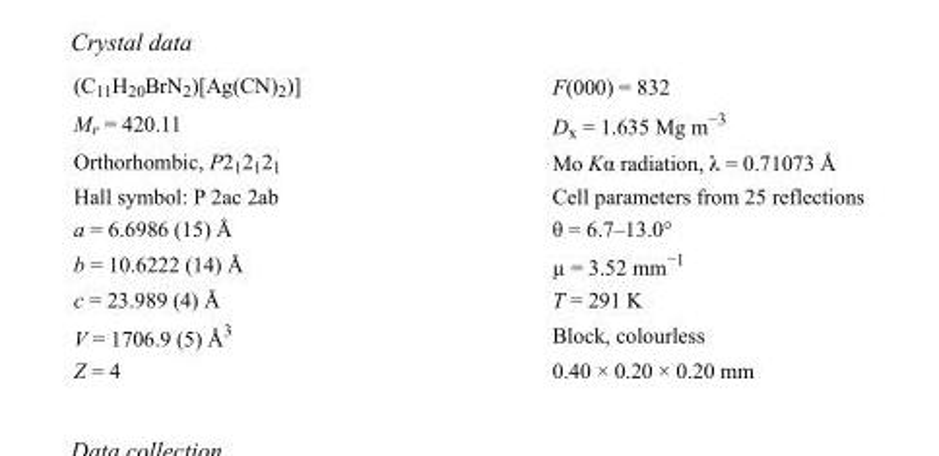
<table><tbody><tr><td>(C<sub>11</sub>H<sub>20</sub>BrN<sub>2</sub>)[Ag(CN)<sub>2</sub>)]</td><td>F(000) = 832</td></tr><tr><td>M<sub>r</sub> = 420.11</td><td>D<sub>x</sub> = 1.635 Mg m<sup>−3</sup></td></tr><tr><td>Orthorhombic, P2<sub>1</sub>2<sub>1</sub>2<sub>1</sub></td><td>Mo Kα radiation, λ = 0.71073 Å</td></tr><tr><td>Hall symbol: P 2ac 2ab</td><td>Cell parameters from 25 reflections</td></tr><tr><td>a = 6.6986 (15) Å</td><td>θ = 6.7–13.0°</td></tr><tr><td>b = 10.6222 (14) Å</td><td>µ = 3.52 mm<sup>−1</sup></td></tr><tr><td>c = 23.989 (4) Å</td><td>T = 291 K</td></tr><tr><td>V = 1706.9 (5) Å<sup>3</sup></td><td>Block, colourless</td></tr><tr><td>Z = 4</td><td>0.40 × 0.20 × 0.20 mm</td></tr></tbody></table>